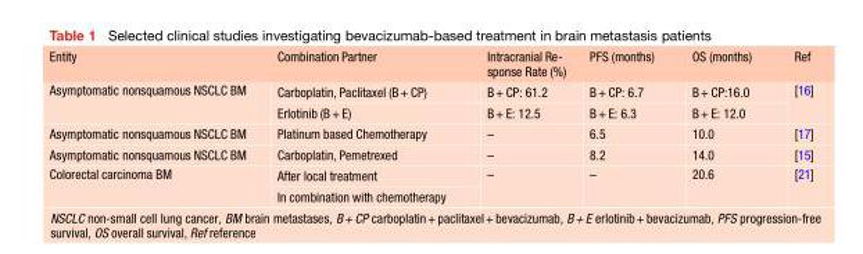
<table><thead><tr><td>Entity</td><td>Combination Partner</td><td>Intracranial Re- sponse Rate (%)</td><td>PFS (months)</td><td>OS (months)</td><td>Ref</td></tr></thead><tbody><tr><td rowspan="2">Asymptomatic nonsquamous NSCLC BM</td><td>Carboplatin, Paclitaxel (B+ CP)</td><td>B+ CP: 61.2</td><td>B+ CP: 6.7</td><td>B+ CP:16.0</td><td rowspan="2">[16]</td></tr><tr><td>Erlotinib (B+ E)</td><td>B+ E: 12.5</td><td>B+ E: 6.3</td><td>B+ E: 12.0</td></tr><tr><td>Asymptomatic nonsquamous NSCLC BM</td><td>Platinum based Chemotherapy</td><td>–</td><td>6.5</td><td>10.0</td><td>[17]</td></tr><tr><td>Asymptomatic nonsquamous NSCLC BM</td><td>Carboplatin, Pemetrexed</td><td>–</td><td>8.2</td><td>14.0</td><td>[15]</td></tr><tr><td rowspan="2">Colorectal carcinoma BM</td><td>After local treatment</td><td rowspan="2">–</td><td rowspan="2">–</td><td rowspan="2">20.6</td><td rowspan="2">[21]</td></tr><tr><td>In combination with chemotherapy</td></tr></tbody></table>